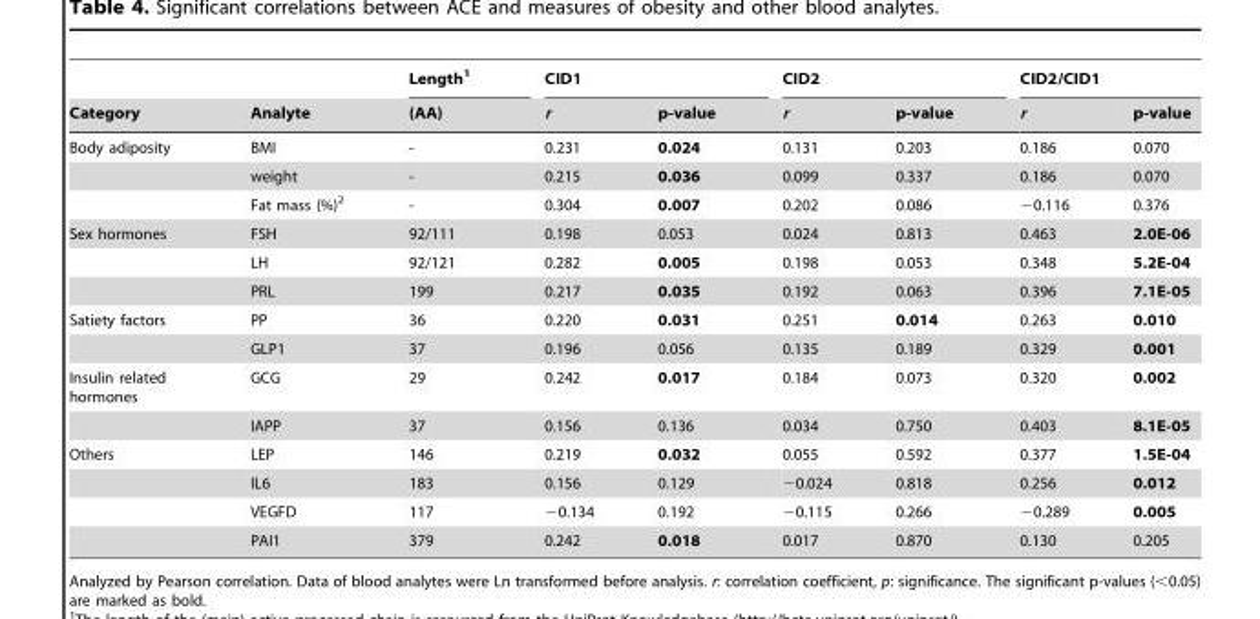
<table><thead><tr><td rowspan="2">Category</td><td rowspan="2">Analyte</td><td rowspan="2">Length<sup>1</sup> (AA)</td><td colspan="2">CID1</td><td colspan="2">CID2</td><td colspan="2">CID2/CID1</td></tr><tr><td>r</td><td>p-value</td><td>r</td><td>p-value</td><td>r</td><td>p-value</td></tr></thead><tbody><tr><td rowspan="3">Body adiposity</td><td>BMI</td><td>-</td><td>0.231</td><td>0.024</td><td>0.131</td><td>0.203</td><td>0.186</td><td>0.070</td></tr><tr><td>weight</td><td>-</td><td>0.215</td><td>0.036</td><td>0.099</td><td>0.337</td><td>0.186</td><td>0.070</td></tr><tr><td>Fat mass (%)<sup>2</sup></td><td>-</td><td>0.304</td><td>0.007</td><td>0.202</td><td>0.086</td><td>−0.116</td><td>0.376</td></tr><tr><td rowspan="3">Sex hormones</td><td>FSH</td><td>92/111</td><td>0.198</td><td>0.053</td><td>0.024</td><td>0.813</td><td>0.463</td><td>2.0E-06</td></tr><tr><td>LH</td><td>92/121</td><td>0.282</td><td>0.005</td><td>0.198</td><td>0.053</td><td>0.348</td><td>5.2E-04</td></tr><tr><td>PRL</td><td>199</td><td>0.217</td><td>0.035</td><td>0.192</td><td>0.063</td><td>0.396</td><td>7.1E-05</td></tr><tr><td rowspan="2">Satiety factors</td><td>PP</td><td>36</td><td>0.220</td><td>0.031</td><td>0.251</td><td>0.014</td><td>0.263</td><td>0.010</td></tr><tr><td>GLP1</td><td>37</td><td>0.196</td><td>0.056</td><td>0.135</td><td>0.189</td><td>0.329</td><td>0.001</td></tr><tr><td rowspan="2">Insulin related hormones</td><td>GCG</td><td>29</td><td>0.242</td><td>0.017</td><td>0.184</td><td>0.073</td><td>0.320</td><td>0.002</td></tr><tr><td>IAPP</td><td>37</td><td>0.156</td><td>0.136</td><td>0.034</td><td>0.750</td><td>0.403</td><td>8.1E-05</td></tr><tr><td rowspan="4">Others</td><td>LEP</td><td>146</td><td>0.219</td><td>0.032</td><td>0.055</td><td>0.592</td><td>0.377</td><td>1.5E-04</td></tr><tr><td>IL6</td><td>183</td><td>0.156</td><td>0.129</td><td>−0.024</td><td>0.818</td><td>0.256</td><td>0.012</td></tr><tr><td>VEGFD</td><td>117</td><td>−0.134</td><td>0.192</td><td>−0.115</td><td>0.266</td><td>−0.289</td><td>0.005</td></tr><tr><td>PAI1</td><td>379</td><td>0.242</td><td>0.018</td><td>0.017</td><td>0.870</td><td>0.130</td><td>0.205</td></tr></tbody></table>